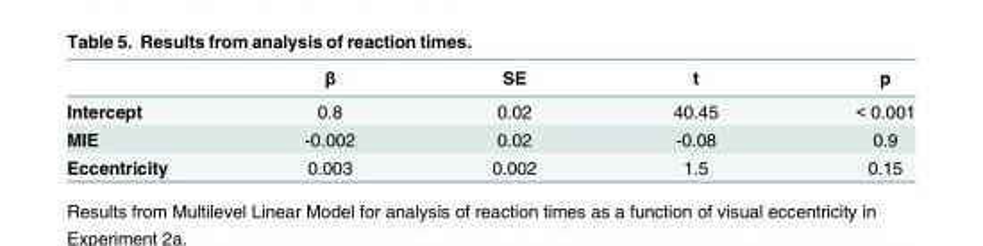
<table><thead><tr><td></td><td>β</td><td>SE</td><td>t</td><td>p</td></tr></thead><tbody><tr><td>Intercept</td><td>0.8</td><td>0.02</td><td>40.45</td><td>&lt; 0.001</td></tr><tr><td>MIE</td><td>-0.002</td><td>0.02</td><td>-0.08</td><td>0.9</td></tr><tr><td>Eccentricity</td><td>0.003</td><td>0.002</td><td>1.5</td><td>0.15</td></tr></tbody></table>